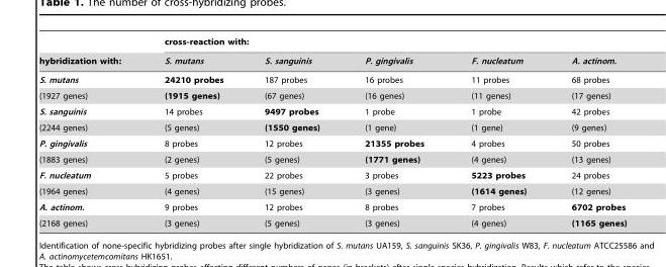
<table><thead><tr><td rowspan="2">hybridization with:</td><td colspan="5">cross-reaction with:</td></tr><tr><td>S. mutans</td><td>S. sanguinis</td><td>P. gingivalis</td><td>F. nucleatum</td><td>A. actinom.</td></tr></thead><tbody><tr><td>S. mutans</td><td>24210 probes</td><td>187 probes</td><td>16 probes</td><td>11 probes</td><td>68 probes</td></tr><tr><td>(1927 genes)</td><td>(1915 genes)</td><td>(67 genes)</td><td>(16 genes)</td><td>(11 genes)</td><td>(17 genes)</td></tr><tr><td>S. sanguinis</td><td>14 probes</td><td>9497 probes</td><td>1 probe</td><td>1 probe</td><td>42 probes</td></tr><tr><td>(2244 genes)</td><td>(5 genes)</td><td>(1550 genes)</td><td>(1 gene)</td><td>(1 gene)</td><td>(9 genes)</td></tr><tr><td>P. gingivalis</td><td>8 probes</td><td>12 probes</td><td>21355 probes</td><td>4 probes</td><td>50 probes</td></tr><tr><td>(1883 genes)</td><td>(2 genes)</td><td>(5 genes)</td><td>(1771 genes)</td><td>(4 genes)</td><td>(13 genes)</td></tr><tr><td>F. nucleatum</td><td>5 probes</td><td>22 probes</td><td>3 probes</td><td>5223 probes</td><td>24 probes</td></tr><tr><td>(1964 genes)</td><td>(4 genes)</td><td>(15 genes)</td><td>(3 genes)</td><td>(1614 genes)</td><td>(12 genes)</td></tr><tr><td>A. actinom.</td><td>9 probes</td><td>12 probes</td><td>8 probes</td><td>7 probes</td><td>6702 probes</td></tr><tr><td>(2168 genes)</td><td>(3 genes)</td><td>(5 genes)</td><td>(3 genes)</td><td>(4 genes)</td><td>(1165 genes)</td></tr></tbody></table>